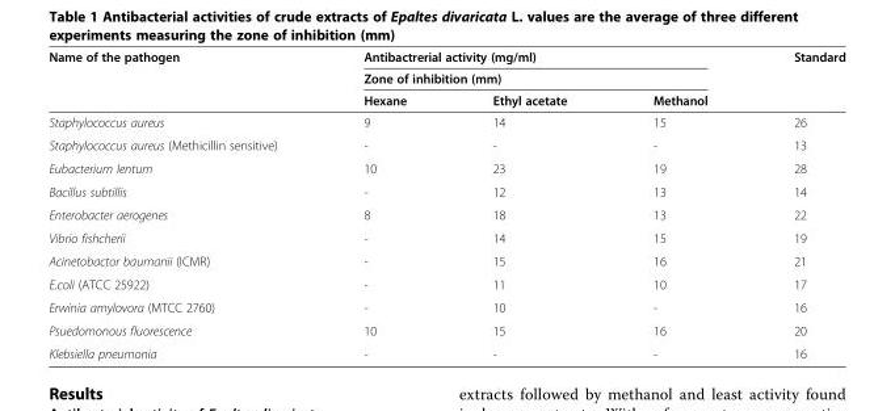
<table><thead><tr><td rowspan="3">Name of the pathogen</td><td rowspan="2" colspan="3">Antibactrerial activity (mg/ml) Zone of inhibition (mm)</td><td rowspan="3">Standard</td></tr><tr></tr><tr><td>Hexane</td><td>Ethyl acetate</td><td>Methanol</td></tr></thead><tbody><tr><td>Staphylococcus aureus</td><td>9</td><td>14</td><td>15</td><td>26</td></tr><tr><td>Staphylococcus aureus (Methicillin sensitive)</td><td>-</td><td>-</td><td>-</td><td>13</td></tr><tr><td>Eubacterium lentum</td><td>10</td><td>23</td><td>19</td><td>28</td></tr><tr><td>Bacillus subtillis</td><td>-</td><td>12</td><td>13</td><td>14</td></tr><tr><td>Enterobacter aerogenes</td><td>8</td><td>18</td><td>13</td><td>22</td></tr><tr><td>Vibrio fishcherii</td><td>-</td><td>14</td><td>15</td><td>19</td></tr><tr><td>Acinetobactor baumanii (ICMR)</td><td>-</td><td>15</td><td>16</td><td>21</td></tr><tr><td>E.coli (ATCC 25922)</td><td>-</td><td>11</td><td>10</td><td>17</td></tr><tr><td>Erwinia amylovora (MTCC 2760)</td><td>-</td><td>10</td><td>-</td><td>16</td></tr><tr><td>Psuedomonous fluorescence</td><td>10</td><td>15</td><td>16</td><td>20</td></tr><tr><td>Klebsiella pneumonia</td><td>-</td><td>-</td><td>-</td><td>16</td></tr></tbody></table>